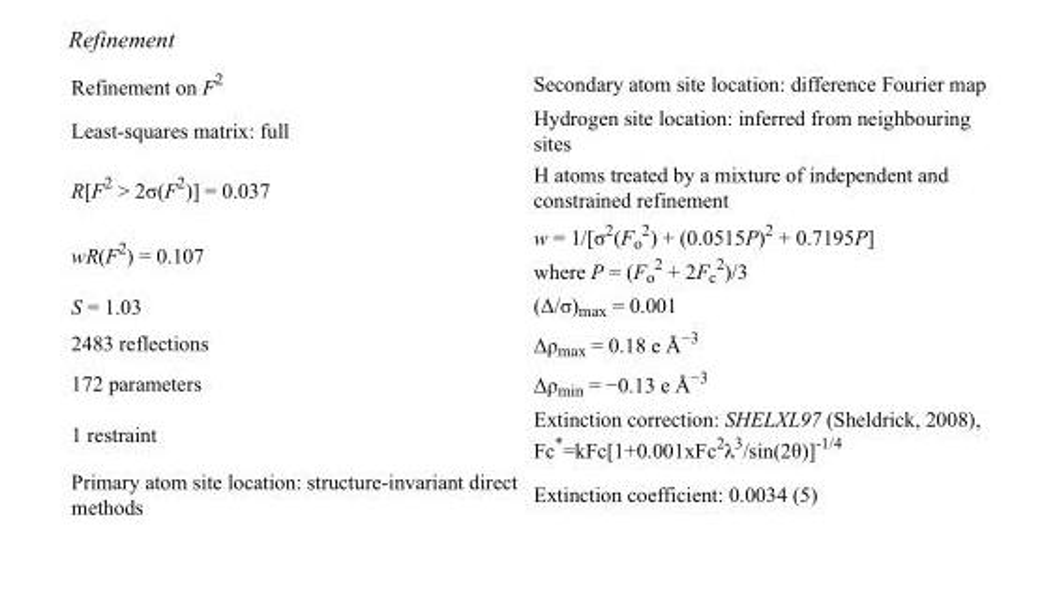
<table><tbody><tr><td>Refinement on F<sup>2</sup></td><td>Secondary atom site location: difference Fourier map</td></tr><tr><td>Least-squares matrix: full</td><td>Hydrogen site location: inferred from neighbouring sites</td></tr><tr><td>R[F<sup>2</sup> &gt; 2σ(F<sup>2</sup>)] = 0.037</td><td>H atoms treated by a mixture of independent and constrained refinement</td></tr><tr><td>wR(F<sup>2</sup>) = 0.107</td><td>w = 1/[σ<sup>2</sup>(F<sub>o</sub> <sup>2</sup>) + (0.0515P)<sup>2</sup> + 0.7195P] where P = (F<sub>o</sub> <sup>2</sup> + 2F<sub>c</sub> <sup>2</sup>)/3</td></tr><tr><td>S = 1.03</td><td>(Δ/σ)<sub>max</sub> = 0.001</td></tr><tr><td>2483 reflections</td><td>Δρ<sub>max</sub> = 0.18 e Å<sup>−3</sup></td></tr><tr><td>172 parameters</td><td>Δρ<sub>min</sub> = −0.13 e Å<sup>−3</sup></td></tr><tr><td>1 restraint</td><td>Extinction correction: SHELXL97 (Sheldrick, 2008), Fc*=kFc[1+0.001xFc<sup>2</sup>λ<sup>3</sup>/sin(2θ)]<sup>-1/4</sup></td></tr><tr><td>Primary atom site location: structure-invariant direct methods</td><td>Extinction coefficient: 0.0034 (5)</td></tr></tbody></table>